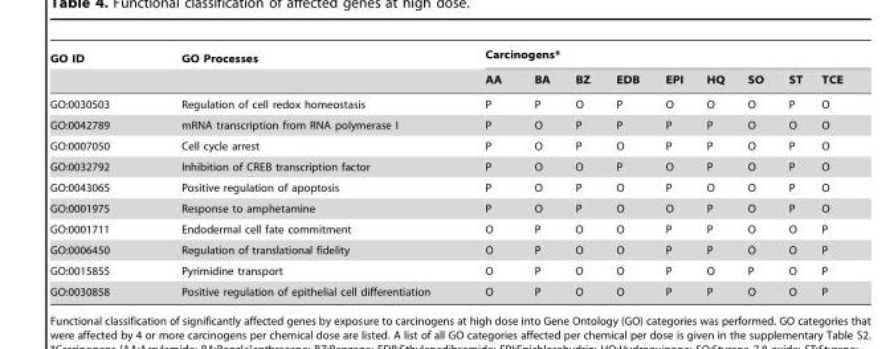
<table><thead><tr><td rowspan="2">GO ID</td><td rowspan="2">GO Processes</td><td colspan="9">Carcinogens*</td></tr><tr><td>AA</td><td>BA</td><td>BZ</td><td>EDB</td><td>EPI</td><td>HQ</td><td>SO</td><td>ST</td><td>TCE</td></tr></thead><tbody><tr><td>GO:0030503</td><td>Regulation of cell redox homeostasis</td><td>P</td><td>P</td><td>O</td><td>P</td><td>O</td><td>O</td><td>O</td><td>P</td><td>O</td></tr><tr><td>GO:0042789</td><td>mRNA transcription from RNA polymerase I</td><td>P</td><td>O</td><td>P</td><td>P</td><td>P</td><td>P</td><td>O</td><td>O</td><td>O</td></tr><tr><td>GO:0007050</td><td>Cell cycle arrest</td><td>P</td><td>O</td><td>P</td><td>O</td><td>P</td><td>P</td><td>O</td><td>P</td><td>O</td></tr><tr><td>GO:0032792</td><td>Inhibition of CREB transcription factor</td><td>P</td><td>O</td><td>O</td><td>P</td><td>O</td><td>P</td><td>O</td><td>P</td><td>O</td></tr><tr><td>GO:0043065</td><td>Positive regulation of apoptosis</td><td>P</td><td>O</td><td>P</td><td>O</td><td>P</td><td>O</td><td>O</td><td>P</td><td>O</td></tr><tr><td>GO:0001975</td><td>Response to amphetamine</td><td>P</td><td>O</td><td>P</td><td>O</td><td>O</td><td>P</td><td>O</td><td>P</td><td>O</td></tr><tr><td>GO:0001711</td><td>Endodermal cell fate commitment</td><td>O</td><td>P</td><td>O</td><td>O</td><td>P</td><td>P</td><td>O</td><td>O</td><td>P</td></tr><tr><td>GO:0006450</td><td>Regulation of translational fidelity</td><td>O</td><td>P</td><td>O</td><td>O</td><td>P</td><td>P</td><td>O</td><td>O</td><td>P</td></tr><tr><td>GO:0015855</td><td>Pyrimidine transport</td><td>O</td><td>P</td><td>O</td><td>O</td><td>P</td><td>O</td><td>P</td><td>O</td><td>P</td></tr><tr><td>GO:0030858</td><td>Positive regulation of epithelial cell differentiation</td><td>O</td><td>P</td><td>O</td><td>O</td><td>P</td><td>P</td><td>O</td><td>O</td><td>P</td></tr></tbody></table>